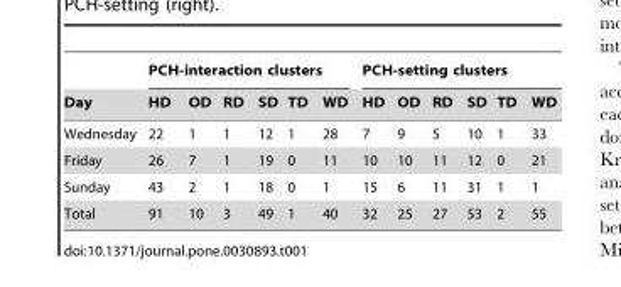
<table><thead><tr><td rowspan="2">Day</td><td colspan="6">PCH-interaction clusters</td><td colspan="6">PCH-setting clusters</td></tr><tr><td>HD</td><td>OD</td><td>RD</td><td>SD</td><td>TD</td><td>WD</td><td>HD</td><td>OD</td><td>RD</td><td>SD</td><td>TD</td><td>WD</td></tr></thead><tbody><tr><td>Wednesday</td><td>22</td><td>1</td><td>1</td><td>12</td><td>1</td><td>28</td><td>7</td><td>9</td><td>5</td><td>10</td><td>1</td><td>33</td></tr><tr><td>Friday</td><td>26</td><td>7</td><td>1</td><td>19</td><td>0</td><td>11</td><td>10</td><td>10</td><td>11</td><td>12</td><td>0</td><td>21</td></tr><tr><td>Sunday</td><td>43</td><td>2</td><td>1</td><td>18</td><td>0</td><td>1</td><td>15</td><td>6</td><td>11</td><td>31</td><td>1</td><td>1</td></tr><tr><td>Total</td><td>91</td><td>10</td><td>3</td><td>49</td><td>1</td><td>40</td><td>32</td><td>25</td><td>27</td><td>53</td><td>2</td><td>55</td></tr></tbody></table>